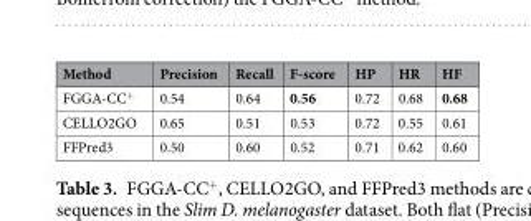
<table><thead><tr><td>Method</td><td>Precision</td><td>Recall</td><td>F-score</td><td>HP</td><td>HR</td><td>HF</td></tr></thead><tbody><tr><td>FGGA-CC<sup>+</sup></td><td>0.54</td><td>0.64</td><td>0.56</td><td>0.72</td><td>0.68</td><td>0.68</td></tr><tr><td>CELLO2GO</td><td>0.65</td><td>0.51</td><td>0.53</td><td>0.72</td><td>0.55</td><td>0.61</td></tr><tr><td>FFPred3</td><td>0.50</td><td>0.60</td><td>0.52</td><td>0.71</td><td>0.62</td><td>0.60</td></tr></tbody></table>